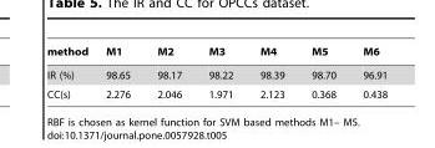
<table><thead><tr><td>method</td><td>M1</td><td>M2</td><td>M3</td><td>M4</td><td>M5</td><td>M6</td></tr></thead><tbody><tr><td>IR (%)</td><td>98.65</td><td>98.17</td><td>98.22</td><td>98.39</td><td>98.70</td><td>96.91</td></tr><tr><td>CC(s)</td><td>2.276</td><td>2.046</td><td>1.971</td><td>2.123</td><td>0.368</td><td>0.438</td></tr></tbody></table>